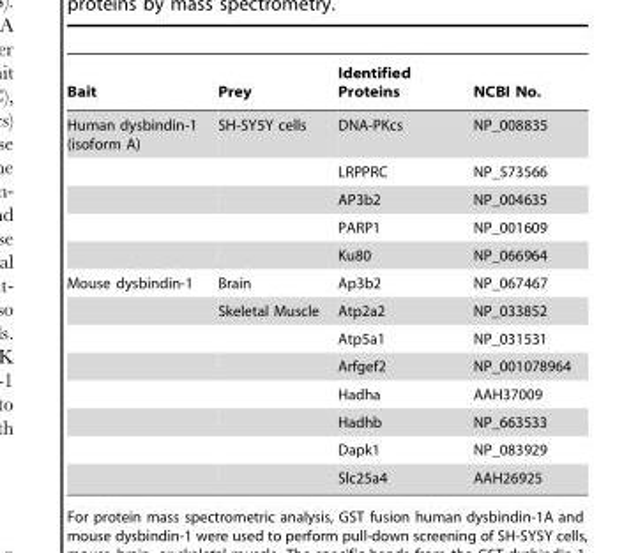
<table><thead><tr><td>Bait</td><td>Prey</td><td>Identified Proteins</td><td>NCBI No.</td></tr></thead><tbody><tr><td rowspan="5">Human dysbindin-1 (isoform A)</td><td>SH-SY5Y cells</td><td>DNA-PKcs</td><td>NP_008835</td></tr><tr><td></td><td>LRPPRC</td><td>NP_573566</td></tr><tr><td></td><td>AP3b2</td><td>NP_004635</td></tr><tr><td></td><td>PARP1</td><td>NP_001609</td></tr><tr><td></td><td>Ku80</td><td>NP_066964</td></tr><tr><td rowspan="8">Mouse dysbindin-1</td><td>Brain</td><td>Ap3b2</td><td>NP_067467</td></tr><tr><td>Skeletal Muscle</td><td>Atp2a2</td><td>NP_033852</td></tr><tr><td></td><td>Atp5a1</td><td>NP_031531</td></tr><tr><td></td><td>Arfgef2</td><td>NP_001078964</td></tr><tr><td></td><td>Hadha</td><td>AAH37009</td></tr><tr><td></td><td>Hadhb</td><td>NP_663533</td></tr><tr><td></td><td>Dapk1</td><td>NP_083929</td></tr><tr><td></td><td>Slc25a4</td><td>AAH26925</td></tr></tbody></table>